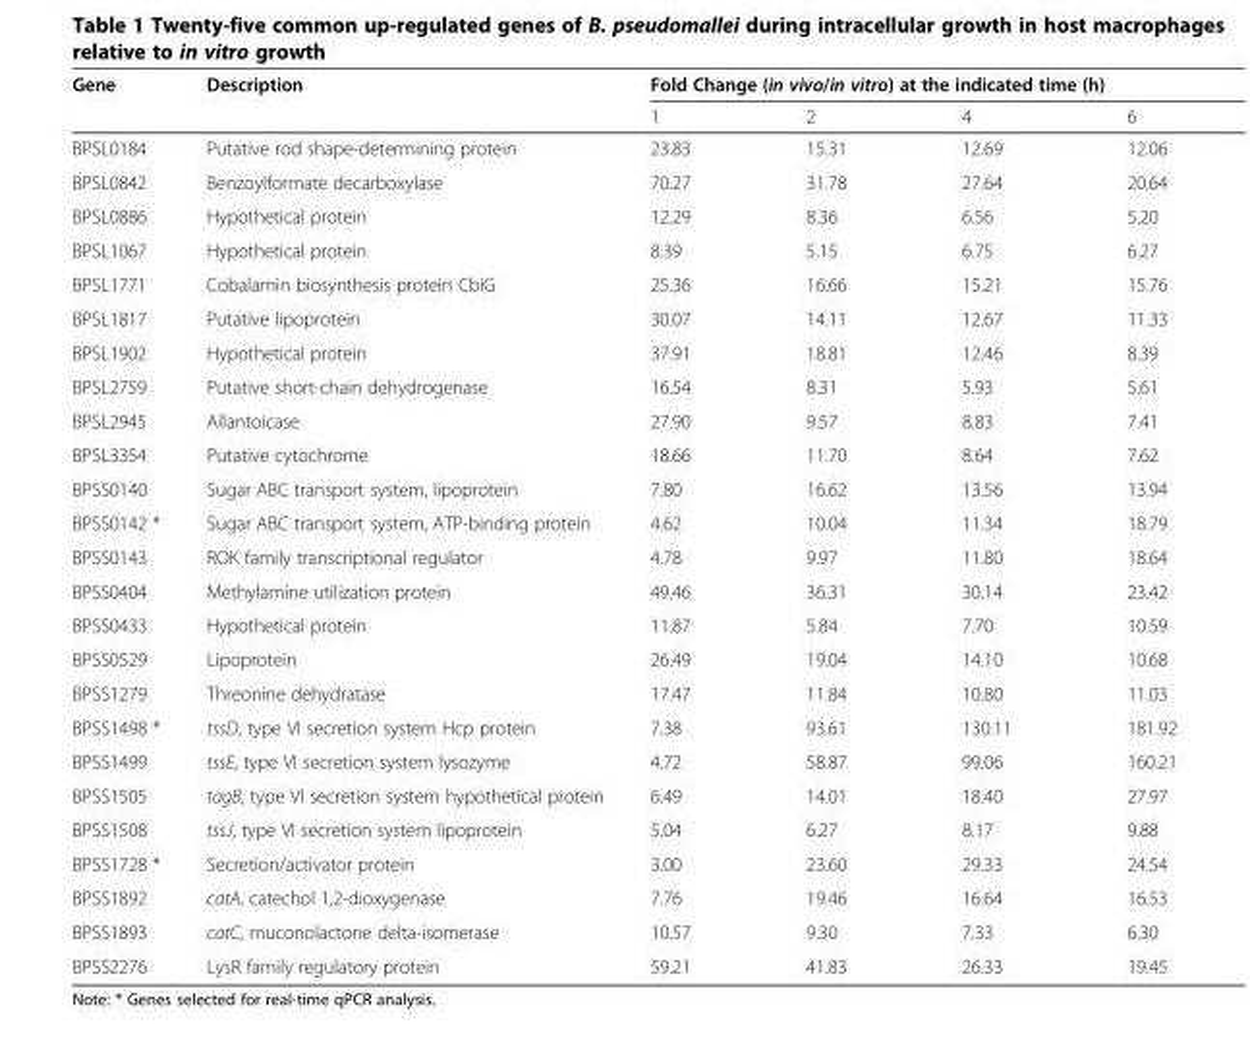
<table><thead><tr><td rowspan="2">Gene</td><td rowspan="2">Description</td><td colspan="4">Fold Change (in vivo/in vitro) at the indicated time (h)</td></tr><tr><td>1</td><td>2</td><td>4</td><td>6</td></tr></thead><tbody><tr><td>BPSL0184</td><td>Putative rod shape-determining protein</td><td>23.83</td><td>15.31</td><td>12.69</td><td>12.06</td></tr><tr><td>BPSL0842</td><td>Benzoylformate decarboxylase</td><td>70.27</td><td>31.78</td><td>27.64</td><td>20.64</td></tr><tr><td>BPSL0886</td><td>Hypothetical protein</td><td>12.29</td><td>8.36</td><td>6.56</td><td>5.20</td></tr><tr><td>BPSL1067</td><td>Hypothetical protein</td><td>8.39</td><td>5.15</td><td>6.75</td><td>6.27</td></tr><tr><td>BPSL1771</td><td>Cobalamin biosynthesis protein CbiG</td><td>25.36</td><td>16.66</td><td>15.21</td><td>15.76</td></tr><tr><td>BPSL1817</td><td>Putative lipoprotein</td><td>30.07</td><td>14.11</td><td>12.67</td><td>11.33</td></tr><tr><td>BPSL1902</td><td>Hypothetical protein</td><td>37.91</td><td>18.81</td><td>12.46</td><td>8.39</td></tr><tr><td>BPSL2759</td><td>Putative short-chain dehydrogenase</td><td>16.54</td><td>8.31</td><td>5.93</td><td>5.61</td></tr><tr><td>BPSL2945</td><td>Allantoicase</td><td>27.90</td><td>9.57</td><td>8.83</td><td>7.41</td></tr><tr><td>BPSL3354</td><td>Putative cytochrome</td><td>18.66</td><td>11.70</td><td>8.64</td><td>7.62</td></tr><tr><td>BPSS0140</td><td>Sugar ABC transport system, lipoprotein</td><td>7.80</td><td>16.62</td><td>13.56</td><td>13.94</td></tr><tr><td>BPSS0142 *</td><td>Sugar ABC transport system, ATP-binding protein</td><td>4.62</td><td>10.04</td><td>11.34</td><td>18.79</td></tr><tr><td>BPSS0143</td><td>ROK family transcriptional regulator</td><td>4.78</td><td>9.97</td><td>11.80</td><td>18.64</td></tr><tr><td>BPSS0404</td><td>Methylamine utilization protein</td><td>49.46</td><td>36.31</td><td>30.14</td><td>23.42</td></tr><tr><td>BPSS0433</td><td>Hypothetical protein</td><td>11.87</td><td>5.84</td><td>7.70</td><td>10.59</td></tr><tr><td>BPSS0529</td><td>Lipoprotein</td><td>26.49</td><td>19.04</td><td>14.10</td><td>10.68</td></tr><tr><td>BPSS1279</td><td>Threonine dehydratase</td><td>17.47</td><td>11.84</td><td>10.80</td><td>11.03</td></tr><tr><td>BPSS1498 *</td><td>tssD, type VI secretion system Hcp protein</td><td>7.38</td><td>93.61</td><td>130.11</td><td>181.92</td></tr><tr><td>BPSS1499</td><td>tssE, type VI secretion system lysozyme</td><td>4.72</td><td>58.87</td><td>99.06</td><td>160.21</td></tr><tr><td>BPSS1505</td><td>tagB, type VI secretion system hypothetical protein</td><td>6.49</td><td>14.01</td><td>18.40</td><td>27.97</td></tr><tr><td>BPSS1508</td><td>tssJ, type VI secretion system lipoprotein</td><td>5.04</td><td>6.27</td><td>8.17</td><td>9.88</td></tr><tr><td>BPSS1728 *</td><td>Secretion/activator protein</td><td>3.00</td><td>23.60</td><td>29.33</td><td>24.54</td></tr><tr><td>BPSS1892</td><td>catA, catechol 1,2-dioxygenase</td><td>7.76</td><td>19.46</td><td>16.64</td><td>16.53</td></tr><tr><td>BPSS1893</td><td>catC, muconolactone delta-isomerase</td><td>10.57</td><td>9.30</td><td>7.33</td><td>6.30</td></tr><tr><td>BPSS2276</td><td>LysR family regulatory protein</td><td>59.21</td><td>41.83</td><td>26.33</td><td>19.45</td></tr></tbody></table>